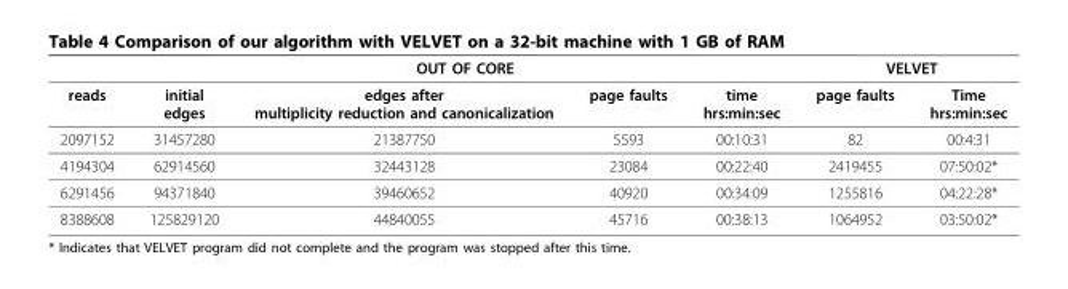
<table><thead><tr><td rowspan="2">reads</td><td colspan="4">OUT OF CORE</td><td colspan="2">VELVET</td></tr><tr><td>initial edges</td><td>edges after multiplicity reduction and canonicalization</td><td>page faults</td><td>time hrs:min:sec</td><td>page faults</td><td>Time hrs:min:sec</td></tr></thead><tbody><tr><td>2097152</td><td>31457280</td><td>21387750</td><td>5593</td><td>00:10:31</td><td>82</td><td>00:4:31</td></tr><tr><td>4194304</td><td>62914560</td><td>32443128</td><td>23084</td><td>00:22:40</td><td>2419455</td><td>07:50:02*</td></tr><tr><td>6291456</td><td>94371840</td><td>39460652</td><td>40920</td><td>00:34:09</td><td>1255816</td><td>04:22:28*</td></tr><tr><td>8388608</td><td>125829120</td><td>44840055</td><td>45716</td><td>00:38:13</td><td>1064952</td><td>03:50:02*</td></tr></tbody></table>